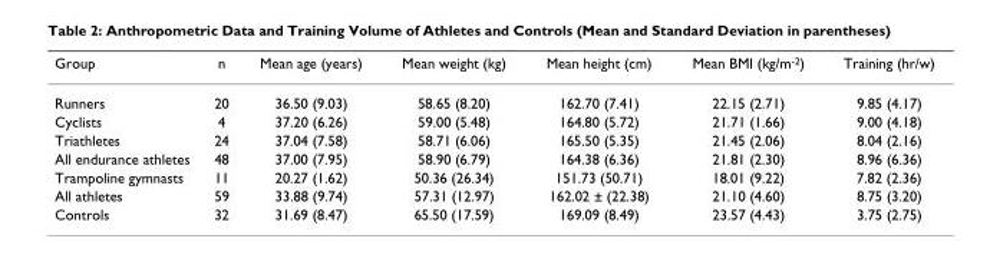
<table><thead><tr><td>Group</td><td>n</td><td>Mean age (years)</td><td>Mean weight (kg)</td><td>Mean height (cm)</td><td>Mean BMI (kg/m<sup>-2</sup>)</td><td>Training (hr/w)</td></tr></thead><tbody><tr><td>Runners</td><td>20</td><td>36.50 (9.03)</td><td>58.65 (8.20)</td><td>162.70 (7.41)</td><td>22.15 (2.71)</td><td>9.85 (4.17)</td></tr><tr><td>Cyclists</td><td>4</td><td>37.20 (6.26)</td><td>59.00 (5.48)</td><td>164.80 (5.72)</td><td>21.71 (1.66)</td><td>9.00 (4.18)</td></tr><tr><td>Triathletes</td><td>24</td><td>37.04 (7.58)</td><td>58.71 (6.06)</td><td>165.50 (5.35)</td><td>21.45 (2.06)</td><td>8.04 (2.16)</td></tr><tr><td>All endurance athletes</td><td>48</td><td>37.00 (7.95)</td><td>58.90 (6.79)</td><td>164.38 (6.36)</td><td>21.81 (2.30)</td><td>8.96 (6.36)</td></tr><tr><td>Trampoline gymnasts</td><td>11</td><td>20.27 (1.62)</td><td>50.36 (26.34)</td><td>151.73 (50.71)</td><td>18.01 (9.22)</td><td>7.82 (2.36)</td></tr><tr><td>All athletes</td><td>59</td><td>33.88 (9.74)</td><td>57.31 (12.97)</td><td>162.02 ± (22.38)</td><td>21.10 (4.60)</td><td>8.75 (3.20)</td></tr><tr><td>Controls</td><td>32</td><td>31.69 (8.47)</td><td>65.50 (17.59)</td><td>169.09 (8.49)</td><td>23.57 (4.43)</td><td>3.75 (2.75)</td></tr></tbody></table>